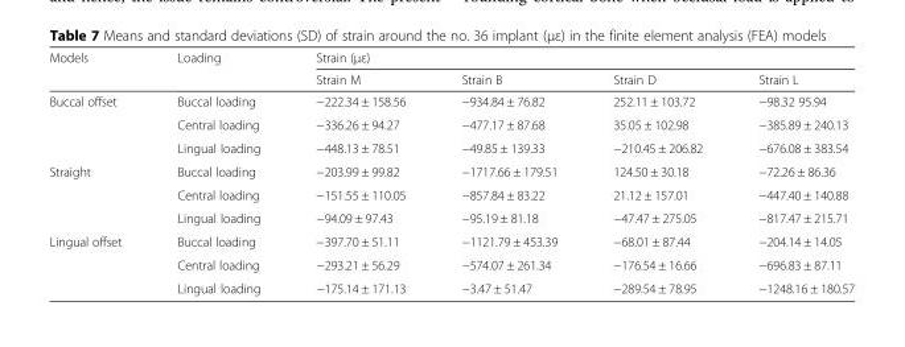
<table><thead><tr><td rowspan="2">Models</td><td rowspan="2">Loading</td><td colspan="4">Strain (με)</td></tr><tr><td>Strain M</td><td>Strain B</td><td>Strain D</td><td>Strain L</td></tr></thead><tbody><tr><td rowspan="3">Buccal offset</td><td>Buccal loading</td><td>−222.34 ± 158.56</td><td>−934.84 ± 76.82</td><td>252.11 ± 103.72</td><td>−98.32 95.94</td></tr><tr><td>Central loading</td><td>−336.26 ± 94.27</td><td>−477.17 ± 87.68</td><td>35.05 ± 102.98</td><td>−385.89 ± 240.13</td></tr><tr><td>Lingual loading</td><td>−448.13 ± 78.51</td><td>−49.85 ± 139.33</td><td>−210.45 ± 206.82</td><td>−676.08 ± 383.54</td></tr><tr><td rowspan="3">Straight</td><td>Buccal loading</td><td>−203.99 ± 99.82</td><td>−1717.66 ± 179.51</td><td>124.50 ± 30.18</td><td>−72.26 ± 86.36</td></tr><tr><td>Central loading</td><td>−151.55 ± 110.05</td><td>−857.84 ± 83.22</td><td>21.12 ± 157.01</td><td>−447.40 ± 140.88</td></tr><tr><td>Lingual loading</td><td>−94.09 ± 97.43</td><td>−95.19 ± 81.18</td><td>−47.47 ± 275.05</td><td>−817.47 ± 215.71</td></tr><tr><td rowspan="3">Lingual offset</td><td>Buccal loading</td><td>−397.70 ± 51.11</td><td>−1121.79 ± 453.39</td><td>−68.01 ± 87.44</td><td>−204.14 ± 14.05</td></tr><tr><td>Central loading</td><td>−293.21 ± 56.29</td><td>−574.07 ± 261.34</td><td>−176.54 ± 16.66</td><td>−696.83 ± 87.11</td></tr><tr><td>Lingual loading</td><td>−175.14 ± 171.13</td><td>−3.47 ± 51.47</td><td>−289.54 ± 78.95</td><td>−1248.16 ± 180.57</td></tr></tbody></table>